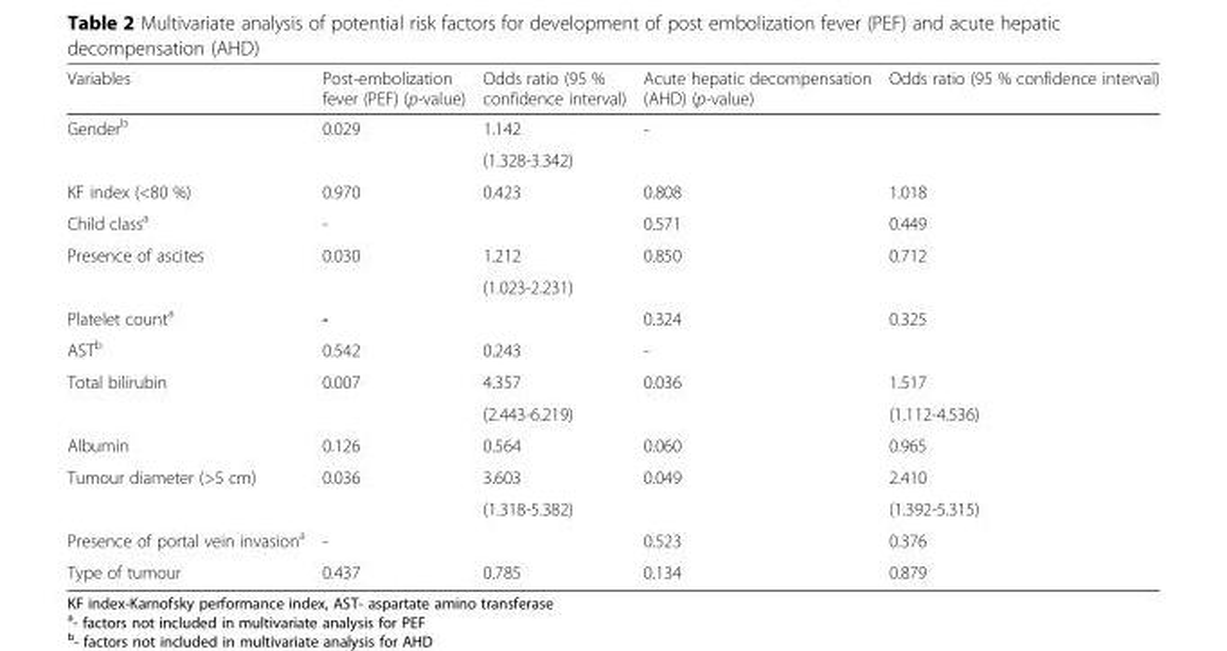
<table><thead><tr><td>Variables</td><td>Post-embolization fever (PEF) (p-value)</td><td>Odds ratio (95 % confidence interval)</td><td>Acute hepatic decompensation (AHD) (p-value)</td><td>Odds ratio (95 % confidence interval)</td></tr></thead><tbody><tr><td rowspan="2">Gender<sup>b</sup></td><td>0.029</td><td>1.142</td><td>-</td><td></td></tr><tr><td></td><td>(1.328-3.342)</td><td></td><td></td></tr><tr><td>KF index (&lt;80 %)</td><td>0.970</td><td>0.423</td><td>0.808</td><td>1.018</td></tr><tr><td>Child class<sup>a</sup></td><td>-</td><td></td><td>0.571</td><td>0.449</td></tr><tr><td rowspan="2">Presence of ascites</td><td>0.030</td><td>1.212</td><td>0.850</td><td>0.712</td></tr><tr><td></td><td>(1.023-2.231)</td><td></td><td></td></tr><tr><td>Platelet count<sup>a</sup></td><td>-</td><td></td><td>0.324</td><td>0.325</td></tr><tr><td>AST<sup>b</sup></td><td>0.542</td><td>0.243</td><td>-</td><td></td></tr><tr><td rowspan="2">Total bilirubin</td><td>0.007</td><td>4.357</td><td>0.036</td><td>1.517</td></tr><tr><td></td><td>(2.443-6.219)</td><td></td><td>(1.112-4.536)</td></tr><tr><td>Albumin</td><td>0.126</td><td>0.564</td><td>0.060</td><td>0.965</td></tr><tr><td rowspan="2">Tumour diameter (&gt;5 cm)</td><td>0.036</td><td>3.603</td><td>0.049</td><td>2.410</td></tr><tr><td></td><td>(1.318-5.382)</td><td></td><td>(1.392-5.315)</td></tr><tr><td>Presence of portal vein invasion<sup>a</sup></td><td>-</td><td></td><td>0.523</td><td>0.376</td></tr><tr><td>Type of tumour</td><td>0.437</td><td>0.785</td><td>0.134</td><td>0.879</td></tr></tbody></table>